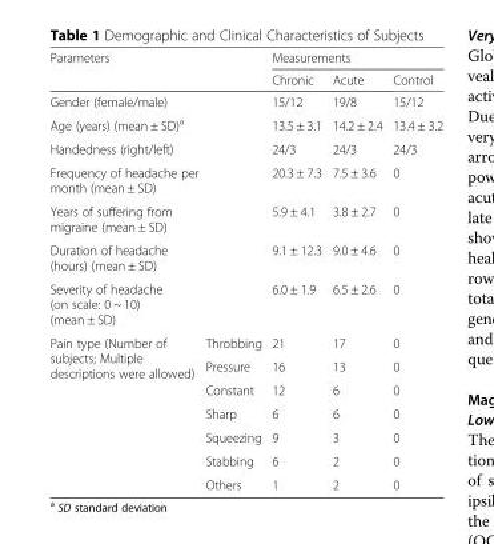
<table><thead><tr><td rowspan="2" colspan="2">Parameters</td><td colspan="3">Measurements</td></tr><tr><td>Chronic</td><td>Acute</td><td>Control</td></tr></thead><tbody><tr><td colspan="2">Gender (female/male)</td><td>15/12</td><td>19/8</td><td>15/12</td></tr><tr><td colspan="2">Age (years) (mean ± SD)<sup>a</sup></td><td>13.5 ± 3.1</td><td>14.2 ± 2.4</td><td>13.4 ± 3.2</td></tr><tr><td colspan="2">Handedness (right/left)</td><td>24/3</td><td>24/3</td><td>24/3</td></tr><tr><td colspan="2">Frequency of headache per month (mean ± SD)</td><td>20.3 ± 7.3</td><td>7.5 ± 3.6</td><td>0</td></tr><tr><td colspan="2">Years of suffering from migraine (mean ± SD)</td><td>5.9 ± 4.1</td><td>3.8 ± 2.7</td><td>0</td></tr><tr><td colspan="2">Duration of headache (hours) (mean ± SD)</td><td>9.1 ± 12.3</td><td>9.0 ± 4.6</td><td>0</td></tr><tr><td colspan="2">Severity of headache (on scale: 0 ~ 10) (mean ± SD)</td><td>6.0 ± 1.9</td><td>6.5 ± 2.6</td><td>0</td></tr><tr><td rowspan="7">Pain type (Number of subjects; Multiple descriptions were allowed)</td><td>Throbbing</td><td>21</td><td>17</td><td>0</td></tr><tr><td>Pressure</td><td>16</td><td>13</td><td>0</td></tr><tr><td>Constant</td><td>12</td><td>6</td><td>0</td></tr><tr><td>Sharp</td><td>6</td><td>6</td><td>0</td></tr><tr><td>Squeezing</td><td>9</td><td>3</td><td>0</td></tr><tr><td>Stabbing</td><td>6</td><td>2</td><td>0</td></tr><tr><td>Others</td><td>1</td><td>2</td><td>0</td></tr></tbody></table>